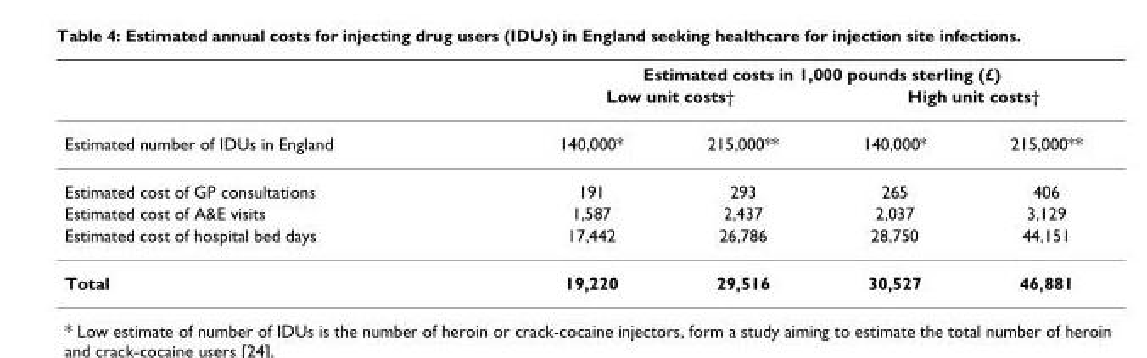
<table><thead><tr><td rowspan="3">Estimated number of IDUs in England</td><td colspan="4">Estimated costs in 1,000 pounds sterling (£)</td></tr><tr><td colspan="2">Low unit costs†</td><td colspan="2">High unit costs†</td></tr><tr><td>140,000*</td><td>215,000**</td><td>140,000*</td><td>215,000**</td></tr></thead><tbody><tr><td>Estimated cost of GP consultations</td><td>191</td><td>293</td><td>265</td><td>406</td></tr><tr><td>Estimated cost of A&amp;E visits</td><td>1,587</td><td>2,437</td><td>2,037</td><td>3,129</td></tr><tr><td>Estimated cost of hospital bed days</td><td>17,442</td><td>26,786</td><td>28,750</td><td>44,151</td></tr><tr><td>Total</td><td>19,220</td><td>29,516</td><td>30,527</td><td>46,881</td></tr></tbody></table>